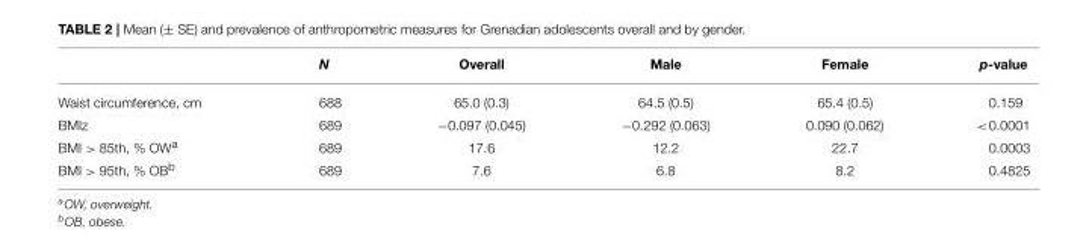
<table><thead><tr><td></td><td>N</td><td>Overall</td><td>Male</td><td>Female</td><td>p-value</td></tr></thead><tbody><tr><td>Waist circumference, cm</td><td>688</td><td>65.0 (0.3)</td><td>64.5 (0.5)</td><td>65.4 (0.5)</td><td>0.159</td></tr><tr><td>BMIz</td><td>689</td><td>−0.097 (0.045)</td><td>−0.292 (0.063)</td><td>0.090 (0.062)</td><td>&lt;0.0001</td></tr><tr><td>BMI &gt; 85th, % OW<sup>a</sup></td><td>689</td><td>17.6</td><td>12.2</td><td>22.7</td><td>0.0003</td></tr><tr><td>BMI &gt; 95th, % OB<sup>b</sup></td><td>689</td><td>7.6</td><td>6.8</td><td>8.2</td><td>0.4825</td></tr></tbody></table>